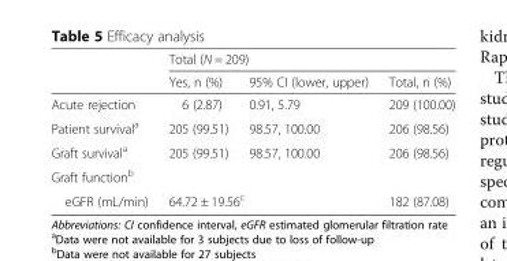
<table><thead><tr><td rowspan="2"></td><td colspan="3">Total (N = 209)</td></tr><tr><td>Yes, n (%)</td><td>95% CI (lower, upper)</td><td>Total, n (%)</td></tr></thead><tbody><tr><td>Acute rejection</td><td>6 (2.87)</td><td>0.91, 5.79</td><td>209 (100.00)</td></tr><tr><td>Patient survival<sup>a</sup></td><td>205 (99.51)</td><td>98.57, 100.00</td><td>206 (98.56)</td></tr><tr><td>Graft survival<sup>a</sup></td><td>205 (99.51)</td><td>98.57, 100.00</td><td>206 (98.56)</td></tr><tr><td colspan="4">Graft function<sup>b</sup></td></tr><tr><td>eGFR (mL/min)</td><td colspan="2">64.72 ± 19.56<sup>c</sup></td><td>182 (87.08)</td></tr></tbody></table>